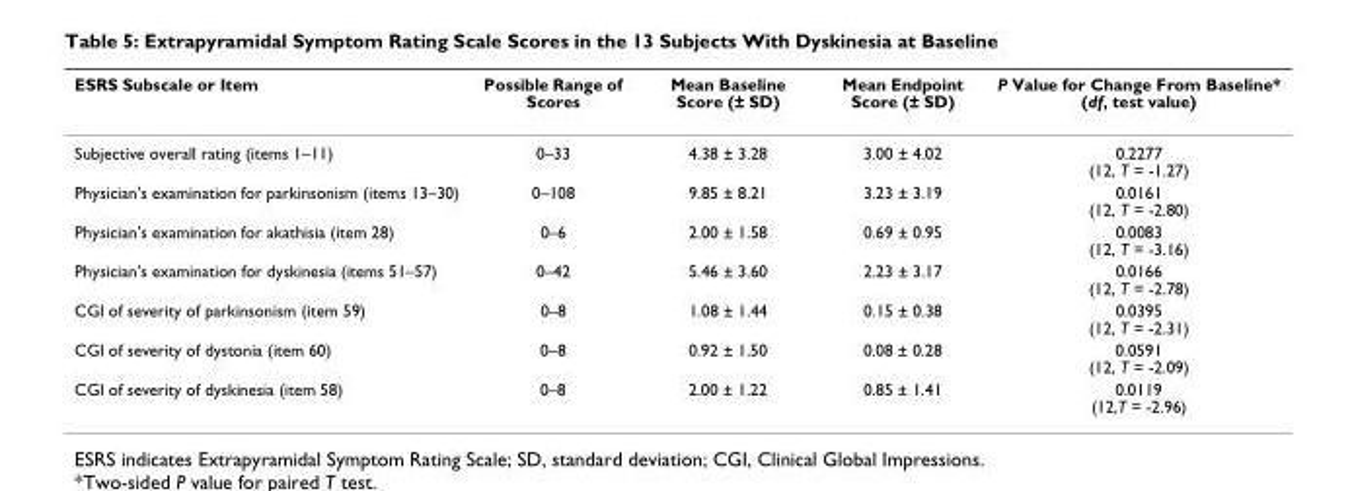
<table><thead><tr><td>ESRS Subscale or Item</td><td>Possible Range of Scores</td><td>Mean Baseline Score (± SD)</td><td>Mean Endpoint Score (± SD)</td><td>P Value for Change From Baseline* (df, test value)</td></tr></thead><tbody><tr><td>Subjective overall rating (items 1–11)</td><td>0–33</td><td>4.38 ± 3.28</td><td>3.00 ± 4.02</td><td>0.2277 (12, T = -1.27)</td></tr><tr><td>Physician&#x27;s examination for parkinsonism (items 13–30)</td><td>0–108</td><td>9.85 ± 8.21</td><td>3.23 ± 3.19</td><td>0.0161 (12, T = -2.80)</td></tr><tr><td>Physician&#x27;s examination for akathisia (item 28)</td><td>0–6</td><td>2.00 ± 1.58</td><td>0.69 ± 0.95</td><td>0.0083 (12, T = -3.16)</td></tr><tr><td>Physician&#x27;s examination for dyskinesia (items 51–57)</td><td>0–42</td><td>5.46 ± 3.60</td><td>2.23 ± 3.17</td><td>0.0166 (12, T = -2.78)</td></tr><tr><td>CGI of severity of parkinsonism (item 59)</td><td>0–8</td><td>1.08 ± 1.44</td><td>0.15 ± 0.38</td><td>0.0395 (12, T = -2.31)</td></tr><tr><td>CGI of severity of dystonia (item 60)</td><td>0–8</td><td>0.92 ± 1.50</td><td>0.08 ± 0.28</td><td>0.0591 (12, T = -2.09)</td></tr><tr><td>CGI of severity of dyskinesia (item 58)</td><td>0–8</td><td>2.00 ± 1.22</td><td>0.85 ± 1.41</td><td>0.0119 (12,T = -2.96)</td></tr></tbody></table>